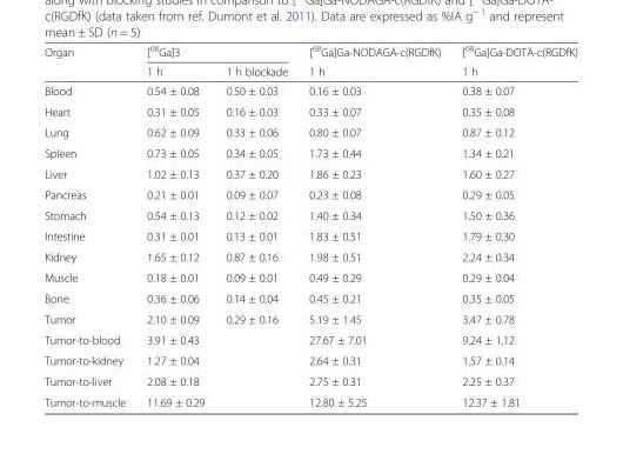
<table><thead><tr><td rowspan="2">Organ</td><td colspan="2">[<sup>68</sup>Ga]3</td><td rowspan="2">[<sup>68</sup>Ga]Ga-NODAGA-c(RGDfK) 1 h</td><td rowspan="2">[<sup>68</sup>Ga]Ga-DOTA-c(RGDfK) 1 h</td></tr><tr><td>1 h</td><td>1 h blockade</td></tr></thead><tbody><tr><td>Blood</td><td>0.54 ± 0.08</td><td>0.50 ± 0.03</td><td>0.16 ± 0.03</td><td>0.38 ± 0.07</td></tr><tr><td>Heart</td><td>0.31 ± 0.05</td><td>0.16 ± 0.03</td><td>0.33 ± 0.07</td><td>0.35 ± 0.08</td></tr><tr><td>Lung</td><td>0.62 ± 0.09</td><td>0.33 ± 0.06</td><td>0.80 ± 0.07</td><td>0.87 ± 0.12</td></tr><tr><td>Spleen</td><td>0.73 ± 0.05</td><td>0.34 ± 0.05</td><td>1.73 ± 0.44</td><td>1.34 ± 0.21</td></tr><tr><td>Liver</td><td>1.02 ± 0.13</td><td>0.37 ± 0.20</td><td>1.86 ± 0.23</td><td>1.60 ± 0.27</td></tr><tr><td>Pancreas</td><td>0.21 ± 0.01</td><td>0.09 ± 0.07</td><td>0.23 ± 0.08</td><td>0.29 ± 0.05</td></tr><tr><td>Stomach</td><td>0.54 ± 0.13</td><td>0.12 ± 0.02</td><td>1.40 ± 0.34</td><td>1.50 ± 0.36</td></tr><tr><td>Intestine</td><td>0.31 ± 0.01</td><td>0.13 ± 0.01</td><td>1.83 ± 0.51</td><td>1.79 ± 0.30</td></tr><tr><td>Kidney</td><td>1.65 ± 0.12</td><td>0.87 ± 0.16</td><td>1.98 ± 0.51</td><td>2.24 ± 0.34</td></tr><tr><td>Muscle</td><td>0.18 ± 0.01</td><td>0.09 ± 0.01</td><td>0.49 ± 0.29</td><td>0.29 ± 0.04</td></tr><tr><td>Bone</td><td>0.36 ± 0.06</td><td>0.14 ± 0.04</td><td>0.45 ± 0.21</td><td>0.35 ± 0.05</td></tr><tr><td>Tumor</td><td>2.10 ± 0.09</td><td>0.29 ± 0.16</td><td>5.19 ± 1.45</td><td>3.47 ± 0.78</td></tr><tr><td>Tumor-to-blood</td><td>3.91 ± 0.43</td><td></td><td>27.67 ± 7.01</td><td>9.24 ± 1.12</td></tr><tr><td>Tumor-to-kidney</td><td>1.27 ± 0.04</td><td></td><td>2.64 ± 0.31</td><td>1.57 ± 0.14</td></tr><tr><td>Tumor-to-liver</td><td>2.08 ± 0.18</td><td></td><td>2.75 ± 0.31</td><td>2.25 ± 0.37</td></tr><tr><td>Tumor-to-muscle</td><td>11.69 ± 0.29</td><td></td><td>12.80 ± 5.25</td><td>12.37 ± 1.81</td></tr></tbody></table>